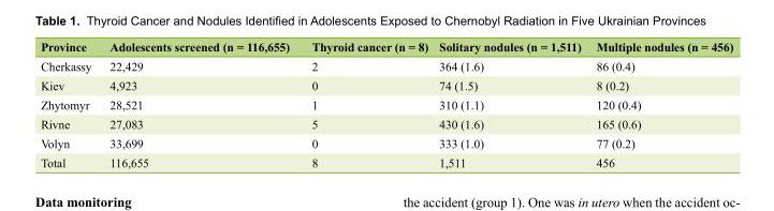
<table><thead><tr><td>Province</td><td>Adolescents screened (n = 116,655)</td><td>Thyroid cancer (n = 8)</td><td>Solitary nodules (n = 1,511)</td><td>Multiple nodules (n = 456)</td></tr></thead><tbody><tr><td>Cherkassy</td><td>22,429</td><td>2</td><td>364 (1.6)</td><td>86 (0.4)</td></tr><tr><td>Kiev</td><td>4,923</td><td>0</td><td>74 (1.5)</td><td>8 (0.2)</td></tr><tr><td>Zhytomyr</td><td>28,521</td><td>1</td><td>310 (1.1)</td><td>120 (0.4)</td></tr><tr><td>Rivne</td><td>27,083</td><td>5</td><td>430 (1.6)</td><td>165 (0.6)</td></tr><tr><td>Volyn</td><td>33,699</td><td>0</td><td>333 (1.0)</td><td>77 (0.2)</td></tr><tr><td>Total</td><td>116,655</td><td>8</td><td>1,511</td><td>456</td></tr></tbody></table>